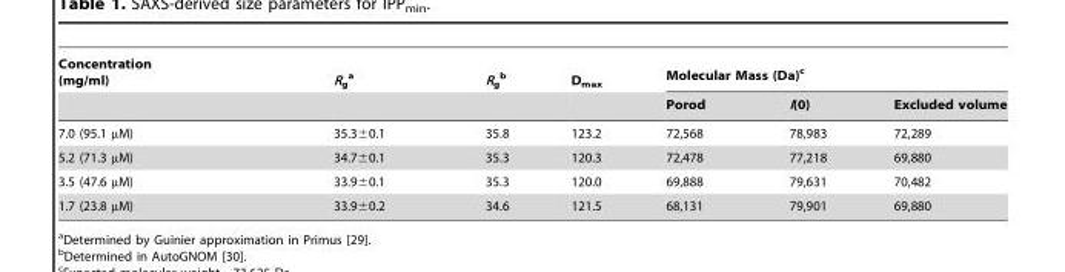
<table><thead><tr><td rowspan="2">Concentration (mg/ml)</td><td rowspan="2">R<sub>g</sub> a</td><td rowspan="2">R<sub>g</sub> b</td><td rowspan="2">D<sub>max</sub></td><td colspan="3">Molecular Mass (Da)<sup>c</sup></td></tr><tr><td>Porod</td><td>I(0)</td><td>Excluded volume</td></tr></thead><tbody><tr><td>7.0 (95.1 µM)</td><td>35.3±0.1</td><td>35.8</td><td>123.2</td><td>72,568</td><td>78,983</td><td>72,289</td></tr><tr><td>5.2 (71.3 µM)</td><td>34.7±0.1</td><td>35.3</td><td>120.3</td><td>72,478</td><td>77,218</td><td>69,880</td></tr><tr><td>3.5 (47.6 µM)</td><td>33.9±0.1</td><td>35.3</td><td>120.0</td><td>69,888</td><td>79,631</td><td>70,482</td></tr><tr><td>1.7 (23.8 µM)</td><td>33.9±0.2</td><td>34.6</td><td>121.5</td><td>68,131</td><td>79,901</td><td>69,880</td></tr></tbody></table>